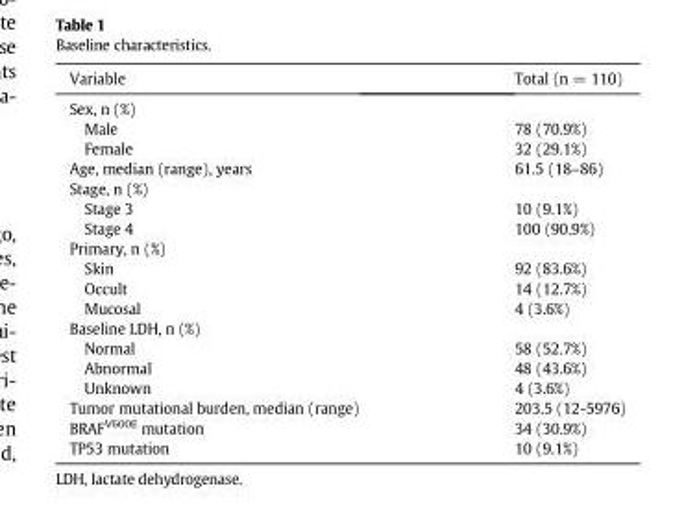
<table><thead><tr><td>Variable</td><td>Total (n = 110)</td></tr></thead><tbody><tr><td colspan="2">Sex, n (%)</td></tr><tr><td>Male</td><td>78 (70.9%)</td></tr><tr><td>Female</td><td>32 (29.1%)</td></tr><tr><td>Age, median (range), years</td><td>61.5 (18–86)</td></tr><tr><td colspan="2">Stage, n (%)</td></tr><tr><td>Stage 3</td><td>10 (9.1%)</td></tr><tr><td>Stage 4</td><td>100 (90.9%)</td></tr><tr><td colspan="2">Primary, n (%)</td></tr><tr><td>Skin</td><td>92 (83.6%)</td></tr><tr><td>Occult</td><td>14 (12.7%)</td></tr><tr><td>Mucosal</td><td>4 (3.6%)</td></tr><tr><td colspan="2">Baseline LDH, n (%)</td></tr><tr><td>Normal</td><td>58 (52.7%)</td></tr><tr><td>Abnormal</td><td>48 (43.6%)</td></tr><tr><td>Unknown</td><td>4 (3.6%)</td></tr><tr><td>Tumor mutational burden, median (range)</td><td>203.5 (12-5976)</td></tr><tr><td>BRAF<sup>V600E</sup> mutation</td><td>34 (30.9%)</td></tr><tr><td>TP53 mutation</td><td>10 (9.1%)</td></tr></tbody></table>